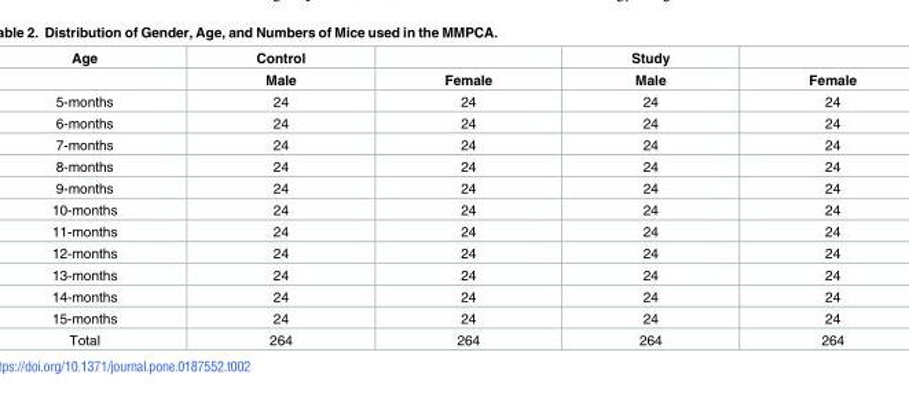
<table><thead><tr><td rowspan="2">Age</td><td rowspan="2">Control Male</td><td rowspan="2">Female</td><td rowspan="2">Study Male</td><td rowspan="2">Female</td></tr><tr></tr></thead><tbody><tr><td>5-months</td><td>24</td><td>24</td><td>24</td><td>24</td></tr><tr><td>6-months</td><td>24</td><td>24</td><td>24</td><td>24</td></tr><tr><td>7-months</td><td>24</td><td>24</td><td>24</td><td>24</td></tr><tr><td>8-months</td><td>24</td><td>24</td><td>24</td><td>24</td></tr><tr><td>9-months</td><td>24</td><td>24</td><td>24</td><td>24</td></tr><tr><td>10-months</td><td>24</td><td>24</td><td>24</td><td>24</td></tr><tr><td>11-months</td><td>24</td><td>24</td><td>24</td><td>24</td></tr><tr><td>12-months</td><td>24</td><td>24</td><td>24</td><td>24</td></tr><tr><td>13-months</td><td>24</td><td>24</td><td>24</td><td>24</td></tr><tr><td>14-months</td><td>24</td><td>24</td><td>24</td><td>24</td></tr><tr><td>15-months</td><td>24</td><td>24</td><td>24</td><td>24</td></tr><tr><td>Total</td><td>264</td><td>264</td><td>264</td><td>264</td></tr></tbody></table>